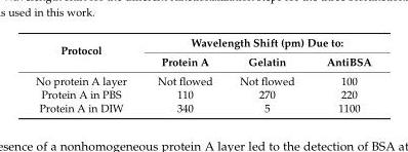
<table><thead><tr><td rowspan="2">Protocol</td><td colspan="3">Wavelength Shift (pm) Due to:</td></tr><tr><td>Protein A</td><td>Gelatin</td><td>AntiBSA</td></tr></thead><tbody><tr><td>No protein A layer</td><td>Not flowed</td><td>Not flowed</td><td>100</td></tr><tr><td>Protein A in PBS</td><td>110</td><td>270</td><td>220</td></tr><tr><td>Protein A in DIW</td><td>340</td><td>5</td><td>1100</td></tr></tbody></table>